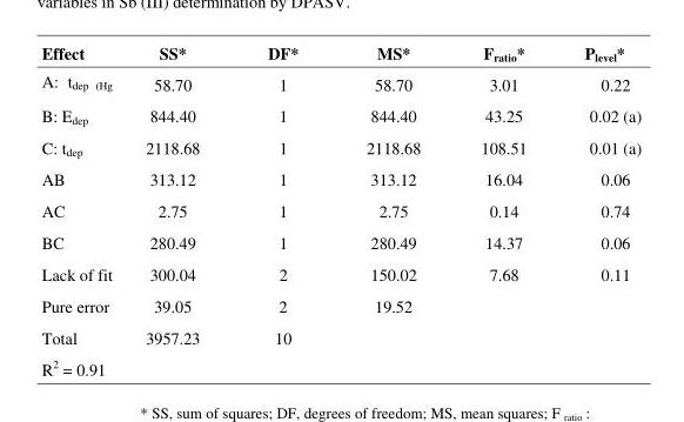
<table><thead><tr><td>Effect</td><td>SS*</td><td>DF*</td><td>MS*</td><td>F<sub>ratio</sub>*</td><td>P<sub>level</sub>*</td></tr></thead><tbody><tr><td>A: t<sub>dep (Hg</sub></td><td>58.70</td><td>1</td><td>58.70</td><td>3.01</td><td>0.22</td></tr><tr><td>B: E<sub>dep</sub></td><td>844.40</td><td>1</td><td>844.40</td><td>43.25</td><td>0.02 (a)</td></tr><tr><td>C: tdep</td><td>2118.68</td><td>1</td><td>2118.68</td><td>108.51</td><td>0.01 (a)</td></tr><tr><td>AB</td><td>313.12</td><td>1</td><td>313.12</td><td>16.04</td><td>0.06</td></tr><tr><td>AC</td><td>2.75</td><td>1</td><td>2.75</td><td>0.14</td><td>0.74</td></tr><tr><td>BC</td><td>280.49</td><td>1</td><td>280.49</td><td>14.37</td><td>0.06</td></tr><tr><td>Lack of fit</td><td>300.04</td><td>2</td><td>150.02</td><td>7.68</td><td>0.11</td></tr><tr><td>Pure error</td><td>39.05</td><td>2</td><td>19.52</td><td></td><td></td></tr><tr><td>Total</td><td>3957.23</td><td>10</td><td></td><td></td><td></td></tr><tr><td>R<sup>2</sup> = 0.91</td><td></td><td></td><td></td><td></td><td></td></tr></tbody></table>